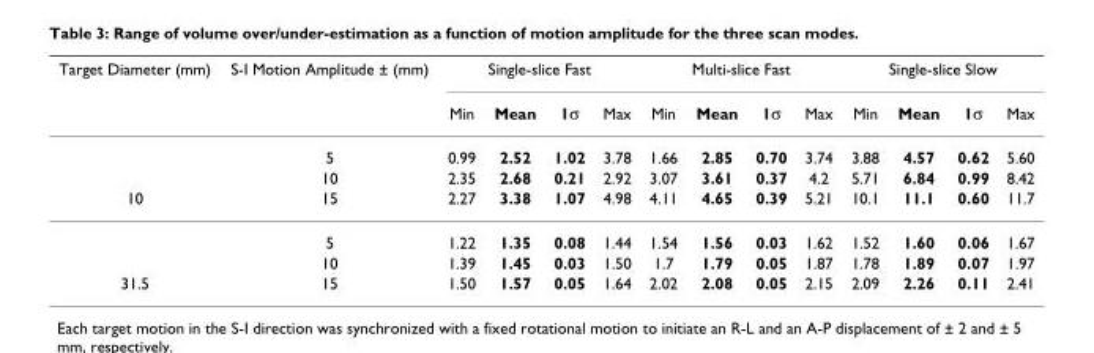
<table><thead><tr><td rowspan="2">Target Diameter (mm)</td><td rowspan="2">S-I Motion Amplitude ± (mm)</td><td colspan="4">Single-slice Fast</td><td colspan="4">Multi-slice Fast</td><td colspan="4">Single-slice Slow</td></tr><tr><td>Min</td><td>Mean</td><td>1σ</td><td>Max</td><td>Min</td><td>Mean</td><td>1σ</td><td>Max</td><td>Min</td><td>Mean</td><td>1σ</td><td>Max</td></tr></thead><tbody><tr><td></td><td>5</td><td>0.99</td><td>2.52</td><td>1.02</td><td>3.78</td><td>1.66</td><td>2.85</td><td>0.70</td><td>3.74</td><td>3.88</td><td>4.57</td><td>0.62</td><td>5.60</td></tr><tr><td></td><td>10</td><td>2.35</td><td>2.68</td><td>0.21</td><td>2.92</td><td>3.07</td><td>3.61</td><td>0.37</td><td>4.2</td><td>5.71</td><td>6.84</td><td>0.99</td><td>8.42</td></tr><tr><td rowspan="3">10</td><td>15</td><td>2.27</td><td>3.38</td><td>1.07</td><td>4.98</td><td>4.11</td><td>4.65</td><td>0.39</td><td>5.21</td><td>10.1</td><td>11.1</td><td>0.60</td><td>11.7</td></tr><tr><td>5</td><td>1.22</td><td>1.35</td><td>0.08</td><td>1.44</td><td>1.54</td><td>1.56</td><td>0.03</td><td>1.62</td><td>1.52</td><td>1.60</td><td>0.06</td><td>1.67</td></tr><tr><td>10</td><td>1.39</td><td>1.45</td><td>0.03</td><td>1.50</td><td>1.7</td><td>1.79</td><td>0.05</td><td>1.87</td><td>1.78</td><td>1.89</td><td>0.07</td><td>1.97</td></tr><tr><td>31.5</td><td>15</td><td>1.50</td><td>1.57</td><td>0.05</td><td>1.64</td><td>2.02</td><td>2.08</td><td>0.05</td><td>2.15</td><td>2.09</td><td>2.26</td><td>0.11</td><td>2.41</td></tr></tbody></table>